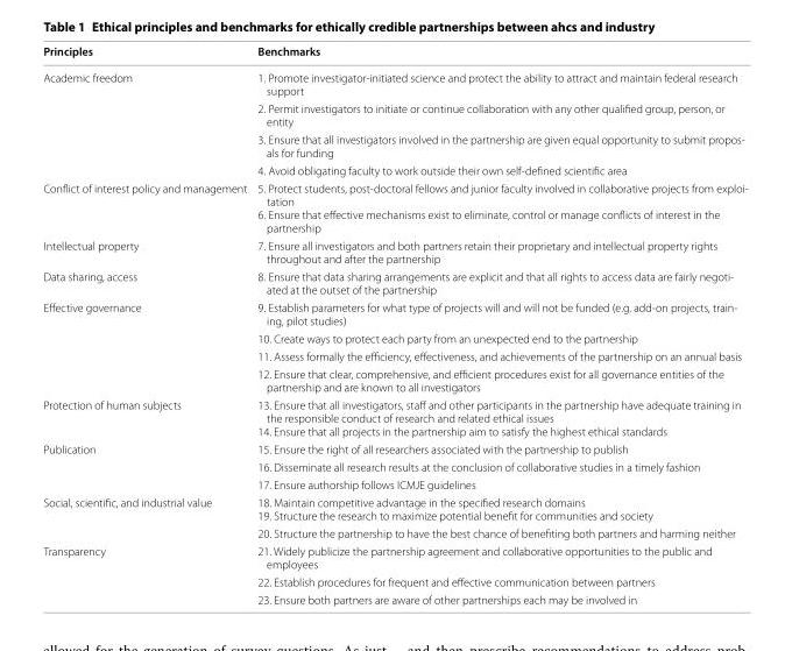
<table><thead><tr><td>Principles</td><td>Benchmarks</td></tr></thead><tbody><tr><td rowspan="4">Academic freedom</td><td>1. Promote investigator-initiated science and protect the ability to attract and maintain federal research support</td></tr><tr><td>2. Permit investigators to initiate or continue collaboration with any other qualified group, person, or entity</td></tr><tr><td>3. Ensure that all investigators involved in the partnership are given equal opportunity to submit propos- als for funding</td></tr><tr><td>4. Avoid obligating faculty to work outside their own self-defined scientific area</td></tr><tr><td>Conflict of interest policy and management</td><td>5. Protect students, post-doctoral fellows and junior faculty involved in collaborative projects from exploi- tation 6. Ensure that effective mechanisms exist to eliminate, control or manage conflicts of interest in the partnership</td></tr><tr><td>Intellectual property</td><td>7. Ensure all investigators and both partners retain their proprietary and intellectual property rights throughout and after the partnership</td></tr><tr><td>Data sharing, access</td><td>8. Ensure that data sharing arrangements are explicit and that all rights to access data are fairly negoti- ated at the outset of the partnership</td></tr><tr><td rowspan="4">Effective governance</td><td>9. Establish parameters for what type of projects will and will not be funded (e.g. add-on projects, train- ing, pilot studies)</td></tr><tr><td>10. Create ways to protect each party from an unexpected end to the partnership</td></tr><tr><td>11. Assess formally the efficiency, effectiveness, and achievements of the partnership on an annual basis</td></tr><tr><td>12. Ensure that clear, comprehensive, and efficient procedures exist for all governance entities of the partnership and are known to all investigators</td></tr><tr><td>Protection of human subjects</td><td>13. Ensure that all investigators, staff and other participants in the partnership have adequate training in the responsible conduct of research and related ethical issues 14. Ensure that all projects in the partnership aim to satisfy the highest ethical standards</td></tr><tr><td rowspan="3">Publication</td><td>15. Ensure the right of all researchers associated with the partnership to publish</td></tr><tr><td>16. Disseminate all research results at the conclusion of collaborative studies in a timely fashion</td></tr><tr><td>17. Ensure authorship follows ICMJE guidelines</td></tr><tr><td rowspan="2">Social, scientific, and industrial value</td><td>18. Maintain competitive advantage in the specified research domains 19. Structure the research to maximize potential benefit for communities and society</td></tr><tr><td>20. Structure the partnership to have the best chance of benefiting both partners and harming neither</td></tr><tr><td rowspan="3">Transparency</td><td>21. Widely publicize the partnership agreement and collaborative opportunities to the public and employees</td></tr><tr><td>22. Establish procedures for frequent and effective communication between partners</td></tr><tr><td>23. Ensure both partners are aware of other partnerships each may be involved in</td></tr></tbody></table>